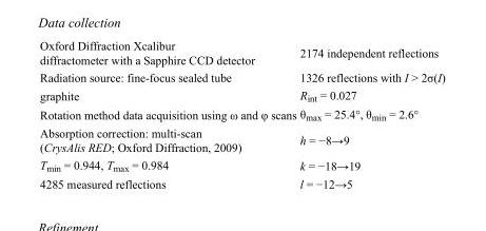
<table><tbody><tr><td>Oxford Diffraction Xcalibur diffractometer with a Sapphire CCD detector</td><td>2174 independent reflections</td></tr><tr><td>Radiation source: fine-focus sealed tube</td><td>1326 reflections with I &gt; 2σ(I)</td></tr><tr><td>graphite</td><td>R<sub>int</sub> = 0.027</td></tr><tr><td>Rotation method data acquisition using ω and φ scans</td><td>θ<sub>max</sub> = 25.4°, θ<sub>min</sub> = 2.6°</td></tr><tr><td>Absorption correction: multi-scan (CrysAlis RED; Oxford Diffraction, 2009)</td><td>h = −8→9</td></tr><tr><td>T<sub>min</sub> = 0.944, T<sub>max</sub> = 0.984</td><td>k = −18→19</td></tr><tr><td>4285 measured reflections</td><td>l = −12→5</td></tr></tbody></table>